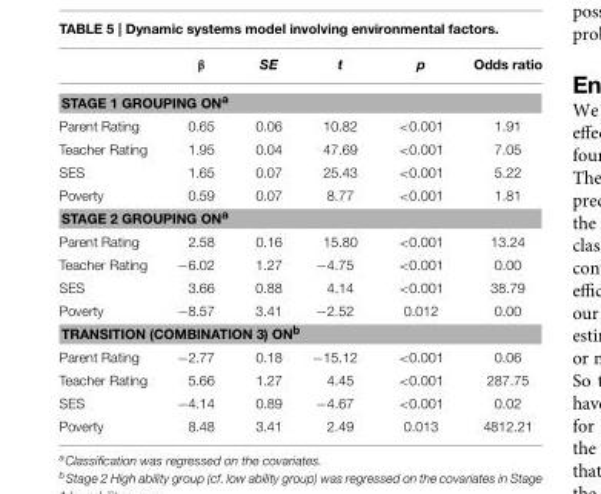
<table><thead><tr><td></td><td>β</td><td>SE</td><td>t</td><td>p</td><td>Odds ratio</td></tr></thead><tbody><tr><td colspan="6">STAGE 1 GROUPING ON<sup>a</sup></td></tr><tr><td>Parent Rating</td><td>0.65</td><td>0.06</td><td>10.82</td><td>&lt;0.001</td><td>1.91</td></tr><tr><td>Teacher Rating</td><td>1.95</td><td>0.04</td><td>47.69</td><td>&lt;0.001</td><td>7.05</td></tr><tr><td>SES</td><td>1.65</td><td>0.07</td><td>25.43</td><td>&lt;0.001</td><td>5.22</td></tr><tr><td>Poverty</td><td>0.59</td><td>0.07</td><td>8.77</td><td>&lt;0.001</td><td>1.81</td></tr><tr><td colspan="6">STAGE 2 GROUPING ON<sup>a</sup></td></tr><tr><td>Parent Rating</td><td>2.58</td><td>0.16</td><td>15.80</td><td>&lt;0.001</td><td>13.24</td></tr><tr><td>Teacher Rating</td><td>−6.02</td><td>1.27</td><td>−4.75</td><td>&lt;0.001</td><td>0.00</td></tr><tr><td>SES</td><td>3.66</td><td>0.88</td><td>4.14</td><td>&lt;0.001</td><td>38.79</td></tr><tr><td>Poverty</td><td>−8.57</td><td>3.41</td><td>−2.52</td><td>0.012</td><td>0.00</td></tr><tr><td colspan="6">TRANSITION (COMBINATION 3) ON<sup>b</sup></td></tr><tr><td>Parent Rating</td><td>−2.77</td><td>0.18</td><td>−15.12</td><td>&lt;0.001</td><td>0.06</td></tr><tr><td>Teacher Rating</td><td>5.66</td><td>1.27</td><td>4.45</td><td>&lt;0.001</td><td>287.75</td></tr><tr><td>SES</td><td>−4.14</td><td>0.89</td><td>−4.67</td><td>&lt;0.001</td><td>0.02</td></tr><tr><td>Poverty</td><td>8.48</td><td>3.41</td><td>2.49</td><td>0.013</td><td>4812.21</td></tr></tbody></table>